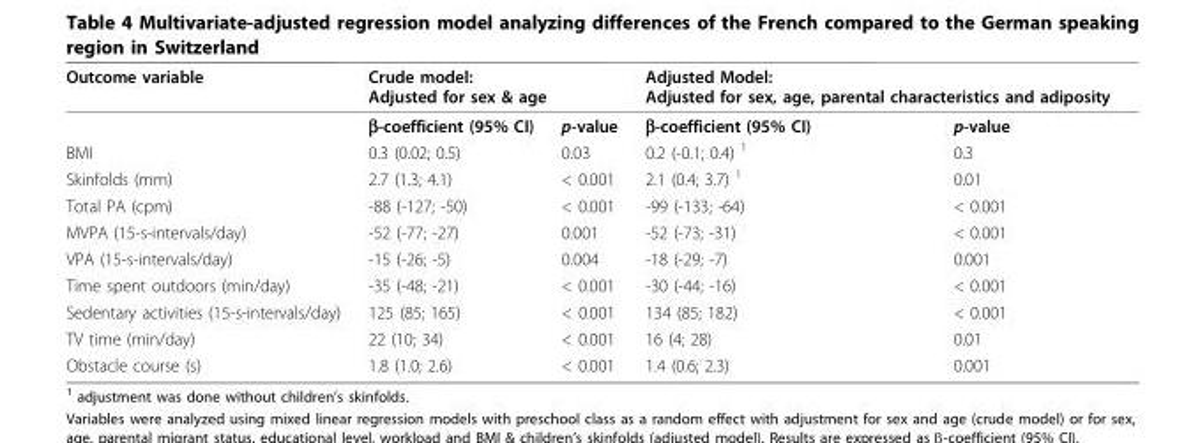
<table><thead><tr><td rowspan="2">Outcome variable</td><td colspan="2">Crude model: Adjusted for sex &amp; age</td><td colspan="2">Adjusted Model: Adjusted for sex, age, parental characteristics and adiposity</td></tr><tr><td>β-coefficient (95% CI)</td><td>p-value</td><td>β-coefficient (95% CI)</td><td>p-value</td></tr></thead><tbody><tr><td>BMI</td><td>0.3 (0.02; 0.5)</td><td>0.03</td><td>0.2 (-0.1; 0.4) <sup>1</sup></td><td>0.3</td></tr><tr><td>Skinfolds (mm)</td><td>2.7 (1.3; 4.1)</td><td>&lt; 0.001</td><td>2.1 (0.4; 3.7) <sup>1</sup></td><td>0.01</td></tr><tr><td>Total PA (cpm)</td><td>-88 (-127; -50)</td><td>&lt; 0.001</td><td>-99 (-133; -64)</td><td>&lt; 0.001</td></tr><tr><td>MVPA (15-s-intervals/day)</td><td>-52 (-77; -27)</td><td>0.001</td><td>-52 (-73; -31)</td><td>&lt; 0.001</td></tr><tr><td>VPA (15-s-intervals/day)</td><td>-15 (-26; -5)</td><td>0.004</td><td>-18 (-29; -7)</td><td>0.001</td></tr><tr><td>Time spent outdoors (min/day)</td><td>-35 (-48; -21)</td><td>&lt; 0.001</td><td>-30 (-44; -16)</td><td>&lt; 0.001</td></tr><tr><td>Sedentary activities (15-s-intervals/day)</td><td>125 (85; 165)</td><td>&lt; 0.001</td><td>134 (85; 182)</td><td>&lt; 0.001</td></tr><tr><td>TV time (min/day)</td><td>22 (10; 34)</td><td>&lt; 0.001</td><td>16 (4; 28)</td><td>0.01</td></tr><tr><td>Obstacle course (s)</td><td>1.8 (1.0; 2.6)</td><td>&lt; 0.001</td><td>1.4 (0.6; 2.3)</td><td>0.001</td></tr></tbody></table>